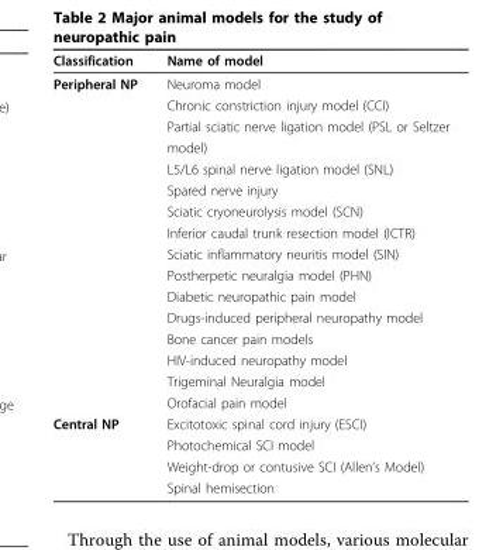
<table><thead><tr><td>Classification</td><td>Name of model</td></tr></thead><tbody><tr><td rowspan="16">Peripheral NP</td><td>Neuroma model</td></tr><tr><td>Chronic constriction injury model (CCI)</td></tr><tr><td>Partial sciatic nerve ligation model (PSL or Seltzer</td></tr><tr><td>model)</td></tr><tr><td>L5/L6 spinal nerve ligation model (SNL)</td></tr><tr><td>Spared nerve injury</td></tr><tr><td>Sciatic cryoneurolysis model (SCN)</td></tr><tr><td>Inferior caudal trunk resection model (ICTR)</td></tr><tr><td>Sciatic inflammatory neuritis model (SIN)</td></tr><tr><td>Postherpetic neuralgia model (PHN)</td></tr><tr><td>Diabetic neuropathic pain model</td></tr><tr><td>Drugs-induced peripheral neuropathy model</td></tr><tr><td>Bone cancer pain models</td></tr><tr><td>HIV-induced neuropathy model</td></tr><tr><td>Trigeminal Neuralgia model</td></tr><tr><td>Orofacial pain model</td></tr><tr><td rowspan="4">Central NP</td><td>Excitotoxic spinal cord injury (ESCI)</td></tr><tr><td>Photochemical SCI model</td></tr><tr><td>Weight-drop or contusive SCI (Allen’s Model)</td></tr><tr><td>Spinal hemisection</td></tr></tbody></table>